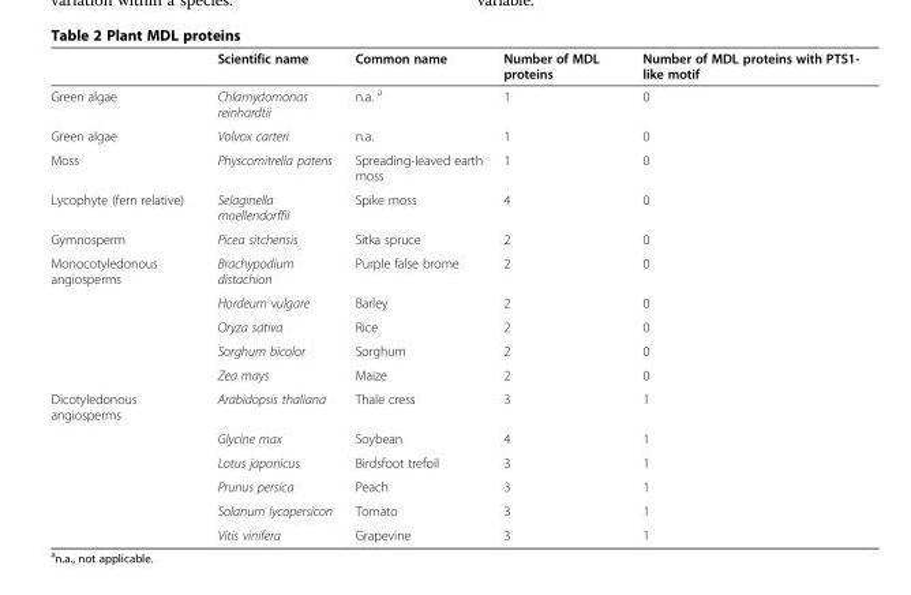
<table><thead><tr><td></td><td>Scientific name</td><td>Common name</td><td>Number of MDL proteins</td><td>Number of MDL proteins with PTS1- like motif</td></tr></thead><tbody><tr><td>Green algae</td><td>Chlamydomonas reinhardtii</td><td>n.a. <sup>a</sup></td><td>1</td><td>0</td></tr><tr><td>Green algae</td><td>Volvox carteri</td><td>n.a.</td><td>1</td><td>0</td></tr><tr><td>Moss</td><td>Physcomitrella patens</td><td>Spreading-leaved earth moss</td><td>1</td><td>0</td></tr><tr><td>Lycophyte (fern relative)</td><td>Selaginella moellendorffii</td><td>Spike moss</td><td>4</td><td>0</td></tr><tr><td>Gymnosperm</td><td>Picea sitchensis</td><td>Sitka spruce</td><td>2</td><td>0</td></tr><tr><td rowspan="5">Monocotyledonous angiosperms</td><td>Brachypodium distachion</td><td>Purple false brome</td><td>2</td><td>0</td></tr><tr><td>Hordeum vulgare</td><td>Barley</td><td>2</td><td>0</td></tr><tr><td>Oryza sativa</td><td>Rice</td><td>2</td><td>0</td></tr><tr><td>Sorghum bicolor</td><td>Sorghum</td><td>2</td><td>0</td></tr><tr><td>Zea mays</td><td>Maize</td><td>2</td><td>0</td></tr><tr><td rowspan="6">Dicotyledonous angiosperms</td><td>Arabidopsis thaliana</td><td>Thale cress</td><td>3</td><td>1</td></tr><tr><td>Glycine max</td><td>Soybean</td><td>4</td><td>1</td></tr><tr><td>Lotus japonicus</td><td>Birdsfoot trefoil</td><td>3</td><td>1</td></tr><tr><td>Prunus persica</td><td>Peach</td><td>3</td><td>1</td></tr><tr><td>Solanum lycopersicon</td><td>Tomato</td><td>3</td><td>1</td></tr><tr><td>Vitis vinifera</td><td>Grapevine</td><td>3</td><td>1</td></tr></tbody></table>